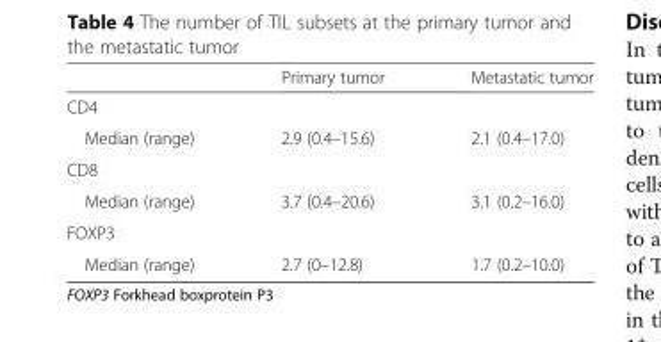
<table><thead><tr><td></td><td>Primary tumor</td><td>Metastatic tumor</td></tr></thead><tbody><tr><td colspan="3">CD4</td></tr><tr><td>Median (range)</td><td>2.9 (0.4–15.6)</td><td>2.1 (0.4–17.0)</td></tr><tr><td colspan="3">CD8</td></tr><tr><td>Median (range)</td><td>3.7 (0.4–20.6)</td><td>3.1 (0.2–16.0)</td></tr><tr><td colspan="3">FOXP3</td></tr><tr><td>Median (range)</td><td>2.7 (0–12.8)</td><td>1.7 (0.2–10.0)</td></tr></tbody></table>